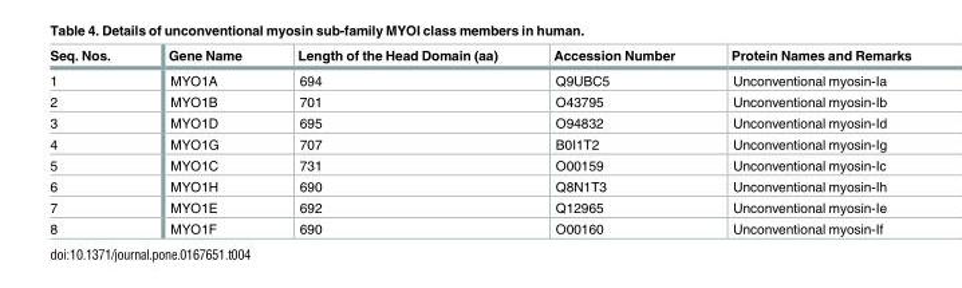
<table><thead><tr><td>Seq. Nos.</td><td>Gene Name</td><td>Length of the Head Domain (aa)</td><td>Accession Number</td><td>Protein Names and Remarks</td></tr></thead><tbody><tr><td>1</td><td>MYO1A</td><td>694</td><td>Q9UBC5</td><td>Unconventional myosin-Ia</td></tr><tr><td>2</td><td>MYO1B</td><td>701</td><td>O43795</td><td>Unconventional myosin-Ib</td></tr><tr><td>3</td><td>MYO1D</td><td>695</td><td>O94832</td><td>Unconventional myosin-Id</td></tr><tr><td>4</td><td>MYO1G</td><td>707</td><td>B0I1T2</td><td>Unconventional myosin-Ig</td></tr><tr><td>5</td><td>MYO1C</td><td>731</td><td>O00159</td><td>Unconventional myosin-Ic</td></tr><tr><td>6</td><td>MYO1H</td><td>690</td><td>Q8N1T3</td><td>Unconventional myosin-Ih</td></tr><tr><td>7</td><td>MYO1E</td><td>692</td><td>Q12965</td><td>Unconventional myosin-Ie</td></tr><tr><td>8</td><td>MYO1F</td><td>690</td><td>O00160</td><td>Unconventional myosin-If</td></tr></tbody></table>